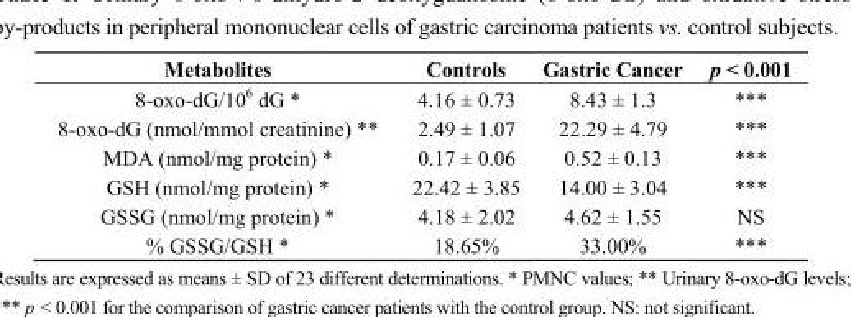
<table><thead><tr><td>Metabolites</td><td>Controls</td><td>Gastric Cancer</td><td>p &lt; 0.001</td></tr></thead><tbody><tr><td>8-oxo-dG/10<sup>6</sup> dG *</td><td>4.16 ± 0.73</td><td>8.43 ± 1.3</td><td>***</td></tr><tr><td>8-oxo-dG (nmol/mmol creatinine) **</td><td>2.49 ± 1.07</td><td>22.29 ± 4.79</td><td>***</td></tr><tr><td>MDA (nmol/mg protein) *</td><td>0.17 ± 0.06</td><td>0.52 ± 0.13</td><td>***</td></tr><tr><td>GSH (nmol/mg protein) *</td><td>22.42 ± 3.85</td><td>14.00 ± 3.04</td><td>***</td></tr><tr><td>GSSG (nmol/mg protein) *</td><td>4.18 ± 2.02</td><td>4.62 ± 1.55</td><td>NS</td></tr><tr><td>% GSSG/GSH *</td><td>18.65%</td><td>33.00%</td><td>***</td></tr></tbody></table>